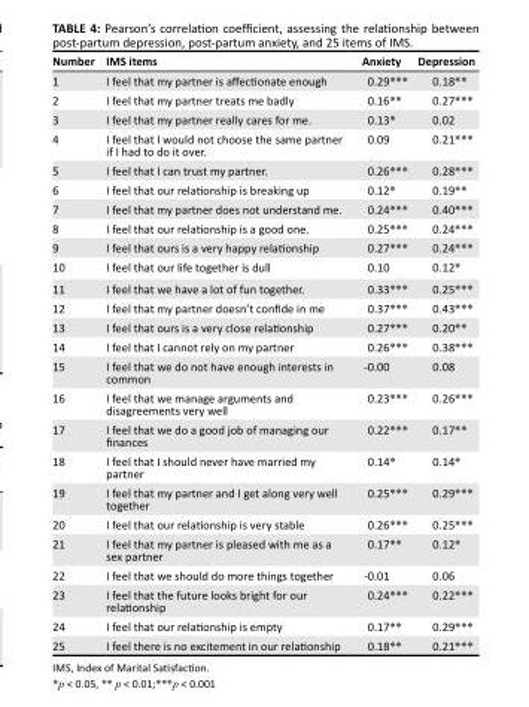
<table><thead><tr><td>Number</td><td>IMS items</td><td>Anxiety</td><td>Depression</td></tr></thead><tbody><tr><td>1</td><td>I feel that my partner is affectionate enough</td><td>0.29***</td><td>0.18**</td></tr><tr><td>2</td><td>I feel that my partner treats me badly</td><td>0.16**</td><td>0.27***</td></tr><tr><td>3</td><td>I feel that my partner really cares for me.</td><td>0.13*</td><td>0.02</td></tr><tr><td>4</td><td>I feel that I would not choose the same partner if I had to do it over.</td><td>0.09</td><td>0.21***</td></tr><tr><td>5</td><td>I feel that I can trust my partner.</td><td>0.26***</td><td>0.28***</td></tr><tr><td>6</td><td>I feel that our relationship is breaking up</td><td>0.12*</td><td>0.19**</td></tr><tr><td>7</td><td>I feel that my partner does not understand me.</td><td>0.24***</td><td>0.40***</td></tr><tr><td>8</td><td>I feel that our relationship is a good one.</td><td>0.25***</td><td>0.24***</td></tr><tr><td>9</td><td>I feel that ours is a very happy relationship</td><td>0.27***</td><td>0.24***</td></tr><tr><td>10</td><td>I feel that our life together is dull</td><td>0.10</td><td>0.12*</td></tr><tr><td>11</td><td>I feel that we have a lot of fun together.</td><td>0.33***</td><td>0.25***</td></tr><tr><td>12</td><td>I feel that my partner doesn’t confide in me</td><td>0.37***</td><td>0.43***</td></tr><tr><td>13</td><td>I feel that ours is a very close relationship</td><td>0.27***</td><td>0.20**</td></tr><tr><td>14</td><td>I feel that I cannot rely on my partner</td><td>0.26***</td><td>0.38***</td></tr><tr><td>15</td><td>I feel that we do not have enough interests in common</td><td>-0.00</td><td>0.08</td></tr><tr><td>16</td><td>I feel that we manage arguments and disagreements very well</td><td>0.23***</td><td>0.26***</td></tr><tr><td>17</td><td>I feel that we do a good job of managing our finances</td><td>0.22***</td><td>0.17**</td></tr><tr><td>18</td><td>I feel that I should never have married my partner</td><td>0.14*</td><td>0.14*</td></tr><tr><td>19</td><td>I feel that my partner and I get along very well together</td><td>0.25***</td><td>0.29***</td></tr><tr><td>20</td><td>I feel that our relationship is very stable</td><td>0.26***</td><td>0.25***</td></tr><tr><td>21</td><td>I feel that my partner is pleased with me as a sex partner</td><td>0.17**</td><td>0.12*</td></tr><tr><td>22</td><td>I feel that we should do more things together</td><td>-0.01</td><td>0.06</td></tr><tr><td>23</td><td>I feel that the future looks bright for our relationship</td><td>0.24***</td><td>0.22***</td></tr><tr><td>24</td><td>I feel that our relationship is empty</td><td>0.17**</td><td>0.29***</td></tr><tr><td>25</td><td>I feel there is no excitement in our relationship</td><td>0.18**</td><td>0.21***</td></tr></tbody></table>